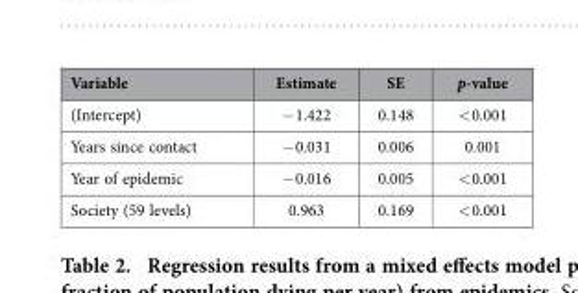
<table><thead><tr><td>Variable</td><td>Estimate</td><td>SE</td><td>p-value</td></tr></thead><tbody><tr><td>(Intercept)</td><td>− 1.422</td><td>0.148</td><td>&lt; 0.001</td></tr><tr><td>Years since contact</td><td>− 0.031</td><td>0.006</td><td>0.001</td></tr><tr><td>Year of epidemic</td><td>− 0.016</td><td>0.005</td><td>&lt; 0.001</td></tr><tr><td>Society (59 levels)</td><td>0.963</td><td>0.169</td><td>&lt; 0.001</td></tr></tbody></table>